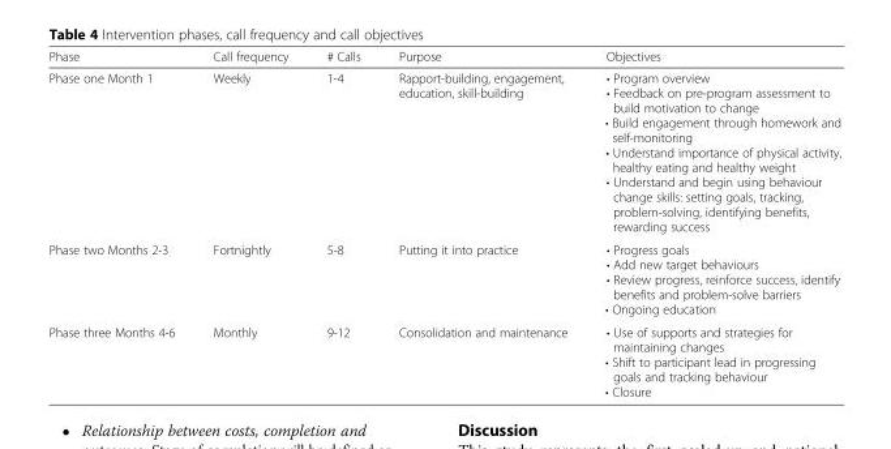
<table><thead><tr><td>Phase</td><td>Call frequency</td><td># Calls</td><td>Purpose</td><td>Objectives</td></tr></thead><tbody><tr><td>Phase one Month 1</td><td>Weekly</td><td>1-4</td><td>Rapport-building, engagement, education, skill-building</td><td>• Program overview • Feedback on pre-program assessment to build motivation to change • Build engagement through homework and self-monitoring • Understand importance of physical activity, healthy eating and healthy weight • Understand and begin using behaviour change skills: setting goals, tracking, problem-solving, identifying benefits, rewarding success</td></tr><tr><td>Phase two Months 2-3</td><td>Fortnightly</td><td>5-8</td><td>Putting it into practice</td><td>• Progress goals • Add new target behaviours • Review progress, reinforce success, identify benefits and problem-solve barriers • Ongoing education</td></tr><tr><td>Phase three Months 4-6</td><td>Monthly</td><td>9-12</td><td>Consolidation and maintenance</td><td>• Use of supports and strategies for maintaining changes • Shift to participant lead in progressing goals and tracking behaviour • Closure</td></tr></tbody></table>